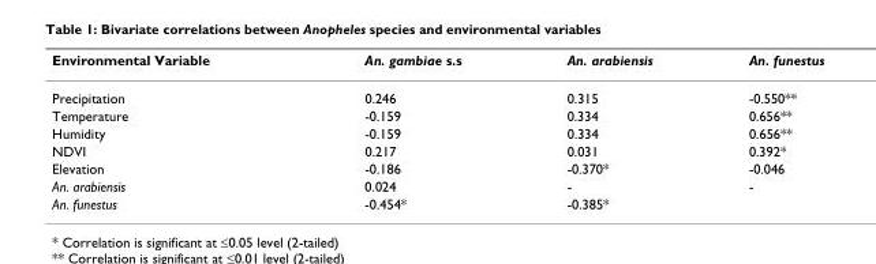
<table><thead><tr><td>Environmental Variable</td><td>An. gambiae s.s</td><td>An. arabiensis</td><td>An. funestus</td></tr></thead><tbody><tr><td>Precipitation</td><td>0.246</td><td>0.315</td><td>-0.550**</td></tr><tr><td>Temperature</td><td>-0.159</td><td>0.334</td><td>0.656**</td></tr><tr><td>Humidity</td><td>-0.159</td><td>0.334</td><td>0.656**</td></tr><tr><td>NDVI</td><td>0.217</td><td>0.031</td><td>0.392*</td></tr><tr><td>Elevation</td><td>-0.186</td><td>-0.370*</td><td>-0.046</td></tr><tr><td>An. arabiensis</td><td>0.024</td><td>-</td><td>-</td></tr><tr><td>An. funestus</td><td>-0.454*</td><td>-0.385*</td><td></td></tr></tbody></table>